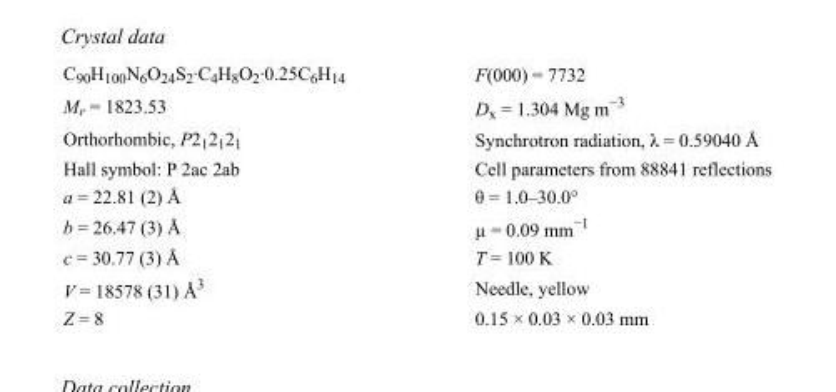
<table><tbody><tr><td>C<sub>90</sub>H<sub>100</sub>N<sub>6</sub>O<sub>24</sub>S<sub>2</sub>·C<sub>4</sub>H<sub>8</sub>O<sub>2</sub>·0.25C<sub>6</sub>H<sub>14</sub></td><td>F(000) = 7732</td></tr><tr><td>M<sub>r</sub> = 1823.53</td><td>D<sub>x</sub> = 1.304 Mg m<sup>−3</sup></td></tr><tr><td>Orthorhombic, P2<sub>1</sub>2<sub>1</sub>2<sub>1</sub></td><td>Synchrotron radiation, λ = 0.59040 Å</td></tr><tr><td>Hall symbol: P 2ac 2ab</td><td>Cell parameters from 88841 reflections</td></tr><tr><td>a = 22.81 (2) Å</td><td>θ = 1.0–30.0°</td></tr><tr><td>b = 26.47 (3) Å</td><td>µ = 0.09 mm<sup>−1</sup></td></tr><tr><td>c = 30.77 (3) Å</td><td>T = 100 K</td></tr><tr><td>V = 18578 (31) Å<sup>3</sup></td><td>Needle, yellow</td></tr><tr><td>Z = 8</td><td>0.15 × 0.03 × 0.03 mm</td></tr></tbody></table>